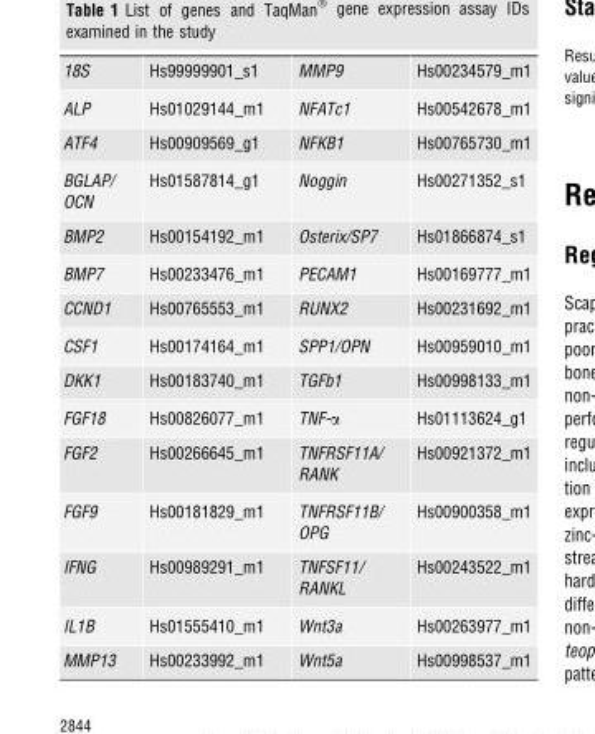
<table><tbody><tr><td>18S</td><td>Hs99999901_s1</td><td>MMP9</td><td>Hs00234579_m1</td></tr><tr><td>ALP</td><td>Hs01029144_m1</td><td>NFATc1</td><td>Hs00542678_m1</td></tr><tr><td>ATF4</td><td>Hs00909569_g1</td><td>NFKB1</td><td>Hs00765730_m1</td></tr><tr><td>BGLAP/ OCN</td><td>Hs01587814_g1</td><td>Noggin</td><td>Hs00271352_s1</td></tr><tr><td>BMP2</td><td>Hs00154192_m1</td><td>Osterix/SP7</td><td>Hs01866874_s1</td></tr><tr><td>BMP7</td><td>Hs00233476_m1</td><td>PECAM1</td><td>Hs00169777_m1</td></tr><tr><td>CCND1</td><td>Hs00765553_m1</td><td>RUNX2</td><td>Hs00231692_m1</td></tr><tr><td>CSF1</td><td>Hs00174164_m1</td><td>SPP1/OPN</td><td>Hs00959010_m1</td></tr><tr><td>DKK1</td><td>Hs00183740_m1</td><td>TGFb1</td><td>Hs00998133_m1</td></tr><tr><td>FGF18</td><td>Hs00826077_m1</td><td>TNF-α</td><td>Hs01113624_g1</td></tr><tr><td>FGF2</td><td>Hs00266645_m1</td><td>TNFRSF11A/ RANK</td><td>Hs00921372_m1</td></tr><tr><td>FGF9</td><td>Hs00181829_m1</td><td>TNFRSF11B/ OPG</td><td>Hs00900358_m1</td></tr><tr><td>IFNG</td><td>Hs00989291_m1</td><td>TNFSF11/ RANKL</td><td>Hs00243522_m1</td></tr><tr><td>IL1B</td><td>Hs01555410_m1</td><td>Wnt3a</td><td>Hs00263977_m1</td></tr><tr><td>MMP13</td><td>Hs00233992_m1</td><td>Wnt5a</td><td>Hs00998537_m1</td></tr></tbody></table>